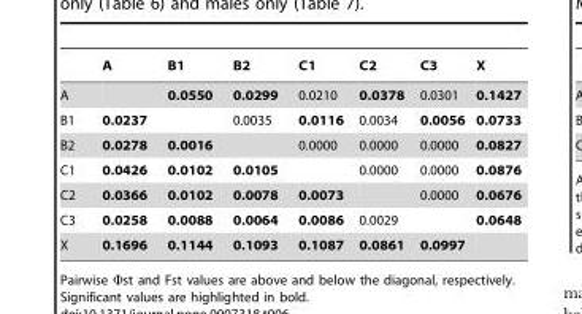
<table><thead><tr><td></td><td>A</td><td>B1</td><td>B2</td><td>C1</td><td>C2</td><td>C3</td><td>X</td></tr></thead><tbody><tr><td>A</td><td></td><td>0.0550</td><td>0.0299</td><td>0.0210</td><td>0.0378</td><td>0.0301</td><td>0.1427</td></tr><tr><td>B1</td><td>0.0237</td><td></td><td>0.0035</td><td>0.0116</td><td>0.0034</td><td>0.0056</td><td>0.0733</td></tr><tr><td>B2</td><td>0.0278</td><td>0.0016</td><td></td><td>0.0000</td><td>0.0000</td><td>0.0000</td><td>0.0827</td></tr><tr><td>C1</td><td>0.0426</td><td>0.0102</td><td>0.0105</td><td></td><td>0.0000</td><td>0.0000</td><td>0.0876</td></tr><tr><td>C2</td><td>0.0366</td><td>0.0102</td><td>0.0078</td><td>0.0073</td><td></td><td>0.0000</td><td>0.0676</td></tr><tr><td>C3</td><td>0.0258</td><td>0.0088</td><td>0.0064</td><td>0.0086</td><td>0.0029</td><td></td><td>0.0648</td></tr><tr><td>X</td><td>0.1696</td><td>0.1144</td><td>0.1093</td><td>0.1087</td><td>0.0861</td><td>0.0997</td><td></td></tr></tbody></table>